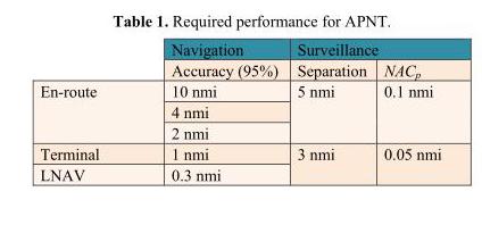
<table><thead><tr><td rowspan="2"></td><td rowspan="2">Navigation Accuracy (95%)</td><td colspan="2">Surveillance</td></tr><tr><td>Separation</td><td>NAC<sub>p</sub></td></tr></thead><tbody><tr><td rowspan="3">En-route</td><td>10 nmi</td><td rowspan="3">5 nmi</td><td rowspan="3">0.1 nmi</td></tr><tr><td>4 nmi</td></tr><tr><td>2 nmi</td></tr><tr><td>Terminal</td><td>1 nmi</td><td rowspan="2">3 nmi</td><td rowspan="2">0.05 nmi</td></tr><tr><td>LNAV</td><td>0.3 nmi</td></tr></tbody></table>